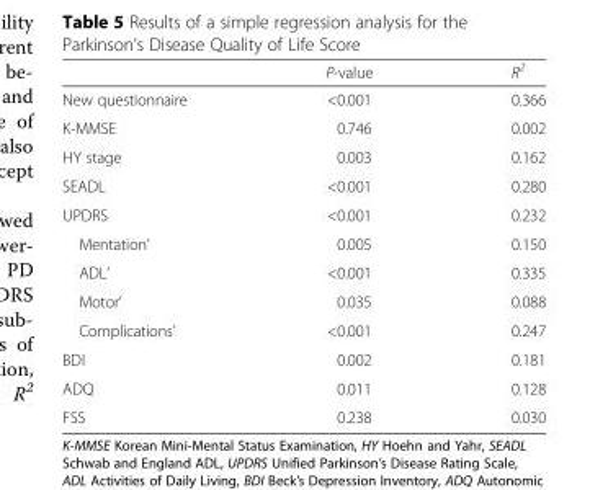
<table><thead><tr><td></td><td>P-value</td><td>R<sup>2</sup></td></tr></thead><tbody><tr><td>New questionnaire</td><td>&lt;0.001</td><td>0.366</td></tr><tr><td>K-MMSE</td><td>0.746</td><td>0.002</td></tr><tr><td>HY stage</td><td>0.003</td><td>0.162</td></tr><tr><td>SEADL</td><td>&lt;0.001</td><td>0.280</td></tr><tr><td>UPDRS</td><td>&lt;0.001</td><td>0.232</td></tr><tr><td>Mentation’</td><td>0.005</td><td>0.150</td></tr><tr><td>ADL’</td><td>&lt;0.001</td><td>0.335</td></tr><tr><td>Motor’</td><td>0.035</td><td>0.088</td></tr><tr><td>Complications’</td><td>&lt;0.001</td><td>0.247</td></tr><tr><td>BDI</td><td>0.002</td><td>0.181</td></tr><tr><td>ADQ</td><td>0.011</td><td>0.128</td></tr><tr><td>FSS</td><td>0.238</td><td>0.030</td></tr></tbody></table>